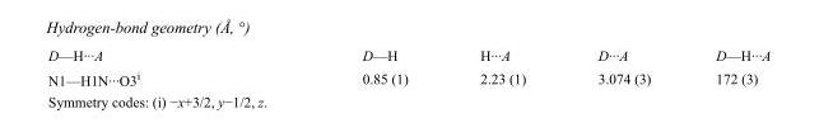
<table><tbody><tr><td>D—H···A</td><td>D—H</td><td>H···A</td><td>D···A</td><td>D—H···A</td></tr><tr><td>N1—H1N···O3<sup>i</sup></td><td>0.85 (1)</td><td>2.23 (1)</td><td>3.074 (3)</td><td>172 (3)</td></tr></tbody></table>